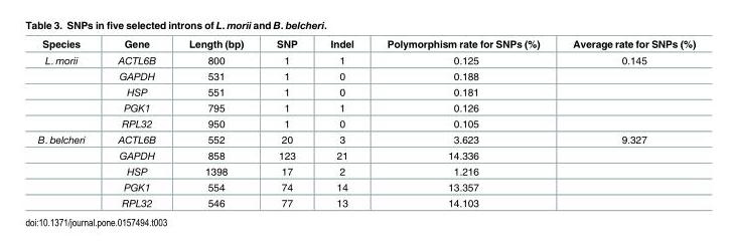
<table><thead><tr><td>Species</td><td>Gene</td><td>Length (bp)</td><td>SNP</td><td>Indel</td><td>Polymorphism rate for SNPs (%)</td><td>Average rate for SNPs (%)</td></tr></thead><tbody><tr><td rowspan="5">L. morii</td><td>ACTL6B</td><td>800</td><td>1</td><td>1</td><td>0.125</td><td>0.145</td></tr><tr><td>GAPDH</td><td>531</td><td>1</td><td>0</td><td>0.188</td><td></td></tr><tr><td>HSP</td><td>551</td><td>1</td><td>0</td><td>0.181</td><td></td></tr><tr><td>PGK1</td><td>795</td><td>1</td><td>1</td><td>0.126</td><td></td></tr><tr><td>RPL32</td><td>950</td><td>1</td><td>0</td><td>0.105</td><td></td></tr><tr><td rowspan="5">B. belcheri</td><td>ACTL6B</td><td>552</td><td>20</td><td>3</td><td>3.623</td><td>9.327</td></tr><tr><td>GAPDH</td><td>858</td><td>123</td><td>21</td><td>14.336</td><td></td></tr><tr><td>HSP</td><td>1398</td><td>17</td><td>2</td><td>1.216</td><td></td></tr><tr><td>PGK1</td><td>554</td><td>74</td><td>14</td><td>13.357</td><td></td></tr><tr><td>RPL32</td><td>546</td><td>77</td><td>13</td><td>14.103</td><td></td></tr></tbody></table>